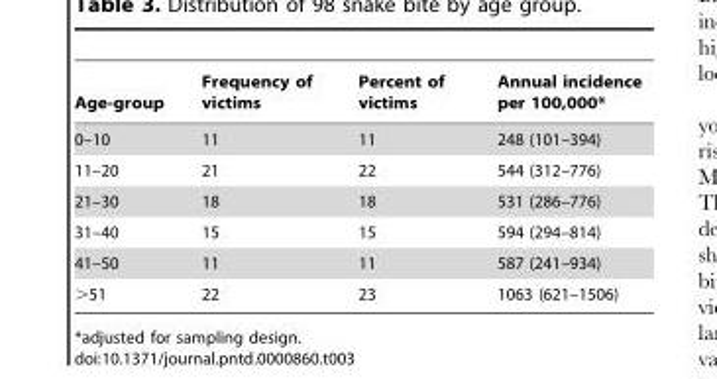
<table><thead><tr><td>Age-group</td><td>Frequency of victims</td><td>Percent of victims</td><td>Annual incidence per 100,000*</td></tr></thead><tbody><tr><td>0–10</td><td>11</td><td>11</td><td>248 (101–394)</td></tr><tr><td>11–20</td><td>21</td><td>22</td><td>544 (312–776)</td></tr><tr><td>21–30</td><td>18</td><td>18</td><td>531 (286–776)</td></tr><tr><td>31–40</td><td>15</td><td>15</td><td>594 (294–814)</td></tr><tr><td>41–50</td><td>11</td><td>11</td><td>587 (241–934)</td></tr><tr><td>&gt;51</td><td>22</td><td>23</td><td>1063 (621–1506)</td></tr></tbody></table>